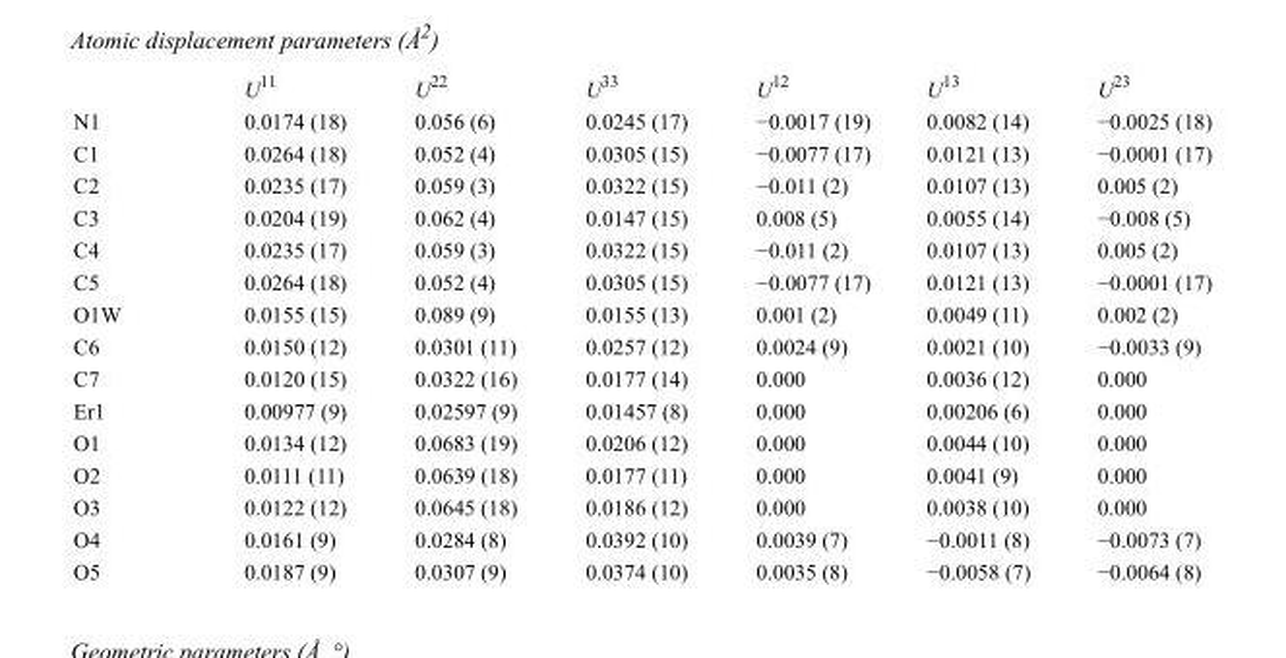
<table><thead><tr><td></td><td>U<sup>11</sup></td><td>U<sup>22</sup></td><td>U<sup>33</sup></td><td>U<sup>12</sup></td><td>U<sup>13</sup></td><td>U<sup>23</sup></td></tr></thead><tbody><tr><td>N1</td><td>0.0174 (18)</td><td>0.056 (6)</td><td>0.0245 (17)</td><td>−0.0017 (19)</td><td>0.0082 (14)</td><td>−0.0025 (18)</td></tr><tr><td>C1</td><td>0.0264 (18)</td><td>0.052 (4)</td><td>0.0305 (15)</td><td>−0.0077 (17)</td><td>0.0121 (13)</td><td>−0.0001 (17)</td></tr><tr><td>C2</td><td>0.0235 (17)</td><td>0.059 (3)</td><td>0.0322 (15)</td><td>−0.011 (2)</td><td>0.0107 (13)</td><td>0.005 (2)</td></tr><tr><td>C3</td><td>0.0204 (19)</td><td>0.062 (4)</td><td>0.0147 (15)</td><td>0.008 (5)</td><td>0.0055 (14)</td><td>−0.008 (5)</td></tr><tr><td>C4</td><td>0.0235 (17)</td><td>0.059 (3)</td><td>0.0322 (15)</td><td>−0.011 (2)</td><td>0.0107 (13)</td><td>0.005 (2)</td></tr><tr><td>C5</td><td>0.0264 (18)</td><td>0.052 (4)</td><td>0.0305 (15)</td><td>−0.0077 (17)</td><td>0.0121 (13)</td><td>−0.0001 (17)</td></tr><tr><td>O1W</td><td>0.0155 (15)</td><td>0.089 (9)</td><td>0.0155 (13)</td><td>0.001 (2)</td><td>0.0049 (11)</td><td>0.002 (2)</td></tr><tr><td>C6</td><td>0.0150 (12)</td><td>0.0301 (11)</td><td>0.0257 (12)</td><td>0.0024 (9)</td><td>0.0021 (10)</td><td>−0.0033 (9)</td></tr><tr><td>C7</td><td>0.0120 (15)</td><td>0.0322 (16)</td><td>0.0177 (14)</td><td>0.000</td><td>0.0036 (12)</td><td>0.000</td></tr><tr><td>Er1</td><td>0.00977 (9)</td><td>0.02597 (9)</td><td>0.01457 (8)</td><td>0.000</td><td>0.00206 (6)</td><td>0.000</td></tr><tr><td>O1</td><td>0.0134 (12)</td><td>0.0683 (19)</td><td>0.0206 (12)</td><td>0.000</td><td>0.0044 (10)</td><td>0.000</td></tr><tr><td>O2</td><td>0.0111 (11)</td><td>0.0639 (18)</td><td>0.0177 (11)</td><td>0.000</td><td>0.0041 (9)</td><td>0.000</td></tr><tr><td>O3</td><td>0.0122 (12)</td><td>0.0645 (18)</td><td>0.0186 (12)</td><td>0.000</td><td>0.0038 (10)</td><td>0.000</td></tr><tr><td>O4</td><td>0.0161 (9)</td><td>0.0284 (8)</td><td>0.0392 (10)</td><td>0.0039 (7)</td><td>−0.0011 (8)</td><td>−0.0073 (7)</td></tr><tr><td>O5</td><td>0.0187 (9)</td><td>0.0307 (9)</td><td>0.0374 (10)</td><td>0.0035 (8)</td><td>−0.0058 (7)</td><td>−0.0064 (8)</td></tr></tbody></table>